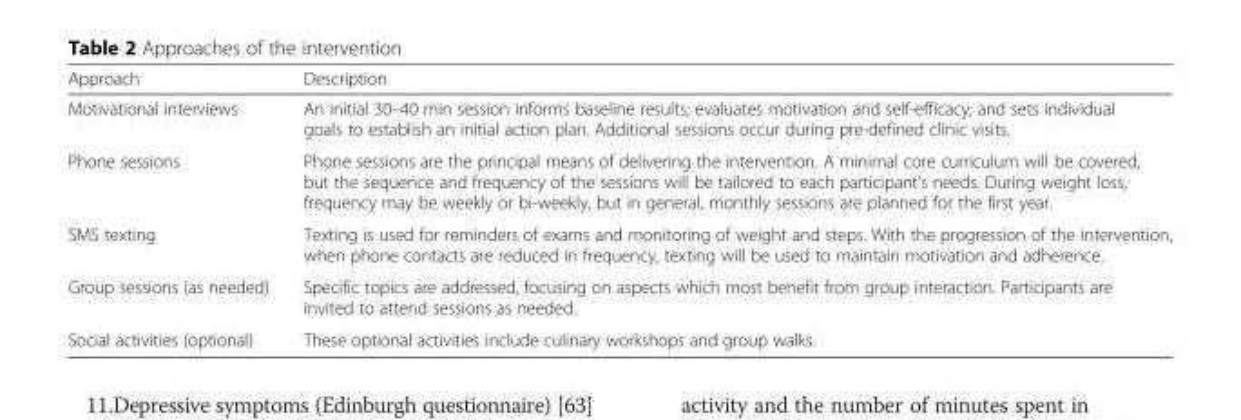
<table><thead><tr><td>Approach</td><td>Description</td></tr></thead><tbody><tr><td>Motivational interviews</td><td>An initial 30–40 min session informs baseline results; evaluates motivation and self-efficacy; and sets individual goals to establish an initial action plan. Additional sessions occur during pre-defined clinic visits.</td></tr><tr><td>Phone sessions</td><td>Phone sessions are the principal means of delivering the intervention. A minimal core curriculum will be covered, but the sequence and frequency of the sessions will be tailored to each participant’s needs. During weight loss, frequency may be weekly or bi-weekly, but in general, monthly sessions are planned for the first year.</td></tr><tr><td>SMS texting</td><td>Texting is used for reminders of exams and monitoring of weight and steps. With the progression of the intervention, when phone contacts are reduced in frequency, texting will be used to maintain motivation and adherence.</td></tr><tr><td>Group sessions (as needed)</td><td>Specific topics are addressed, focusing on aspects which most benefit from group interaction. Participants are invited to attend sessions as needed.</td></tr><tr><td>Social activities (optional)</td><td>These optional activities include culinary workshops and group walks.</td></tr></tbody></table>